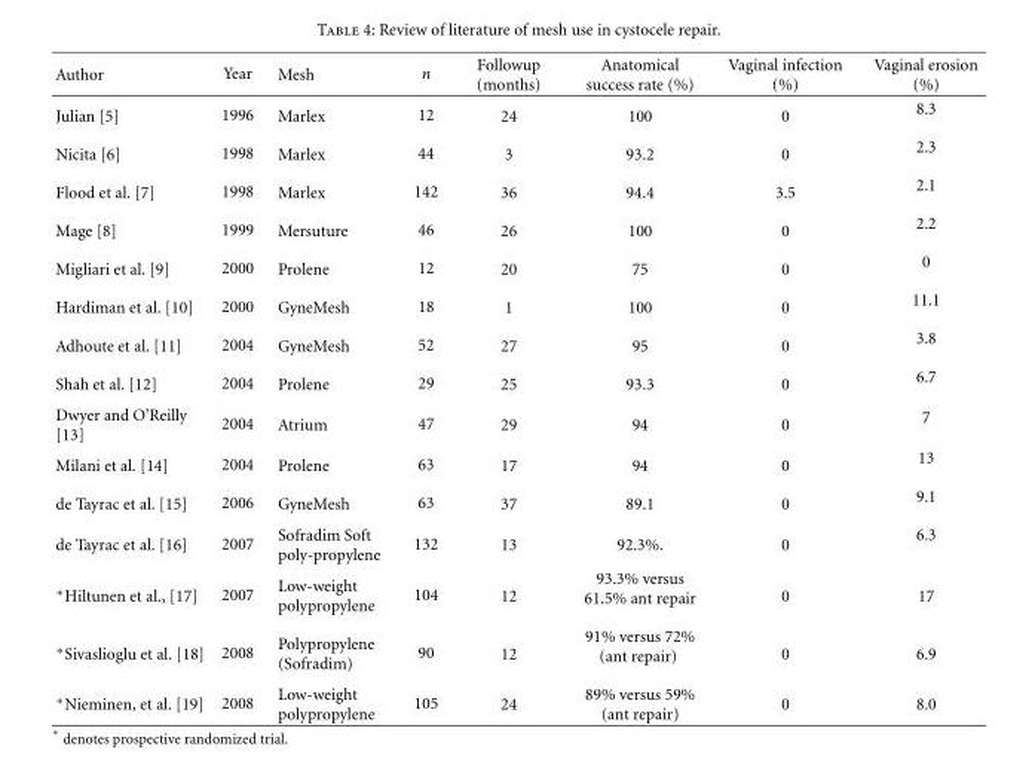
<table><thead><tr><td>Author</td><td>Year</td><td>Mesh</td><td>n</td><td>Followup (months)</td><td>Anatomical success rate (%)</td><td>Vaginal infection (%)</td><td>Vaginal erosion (%)</td></tr></thead><tbody><tr><td>Julian [5]</td><td>1996</td><td>Marlex</td><td>12</td><td>24</td><td>100</td><td>0</td><td>8.3</td></tr><tr><td>Nicita [6]</td><td>1998</td><td>Marlex</td><td>44</td><td>3</td><td>93.2</td><td>0</td><td>2.3</td></tr><tr><td>Flood et al. [7]</td><td>1998</td><td>Marlex</td><td>142</td><td>36</td><td>94.4</td><td>3.5</td><td>2.1</td></tr><tr><td>Mage [8]</td><td>1999</td><td>Mersuture</td><td>46</td><td>26</td><td>100</td><td>0</td><td>2.2</td></tr><tr><td>Migliari et al. [9]</td><td>2000</td><td>Prolene</td><td>12</td><td>20</td><td>75</td><td>0</td><td>0</td></tr><tr><td>Hardiman et al. [10]</td><td>2000</td><td>GyneMesh</td><td>18</td><td>1</td><td>100</td><td>0</td><td>11.1</td></tr><tr><td>Adhoute et al. [11]</td><td>2004</td><td>GyneMesh</td><td>52</td><td>27</td><td>95</td><td>0</td><td>3.8</td></tr><tr><td>Shah et al. [12]</td><td>2004</td><td>Prolene</td><td>29</td><td>25</td><td>93.3</td><td>0</td><td>6.7</td></tr><tr><td>Dwyer and O’Reilly [13]</td><td>2004</td><td>Atrium</td><td>47</td><td>29</td><td>94</td><td>0</td><td>7</td></tr><tr><td>Milani et al. [14]</td><td>2004</td><td>Prolene</td><td>63</td><td>17</td><td>94</td><td>0</td><td>13</td></tr><tr><td>de Tayrac et al. [15]</td><td>2006</td><td>GyneMesh</td><td>63</td><td>37</td><td>89.1</td><td>0</td><td>9.1</td></tr><tr><td>de Tayrac et al. [16]</td><td>2007</td><td>Sofradim Soft poly-propylene</td><td>132</td><td>13</td><td>92.3%.</td><td>0</td><td>6.3</td></tr><tr><td>∗Hiltunen et al., [17]</td><td>2007</td><td>Low-weight polypropylene</td><td>104</td><td>12</td><td>93.3% versus 61.5% ant repair</td><td>0</td><td>17</td></tr><tr><td>∗Sivaslioglu et al. [18]</td><td>2008</td><td>Polypropylene (Sofradim)</td><td>90</td><td>12</td><td>91% versus 72% (ant repair)</td><td>0</td><td>6.9</td></tr><tr><td>∗Nieminen, et al. [19]</td><td>2008</td><td>Low-weight polypropylene</td><td>105</td><td>24</td><td>89% versus 59% (ant repair)</td><td>0</td><td>8.0</td></tr></tbody></table>